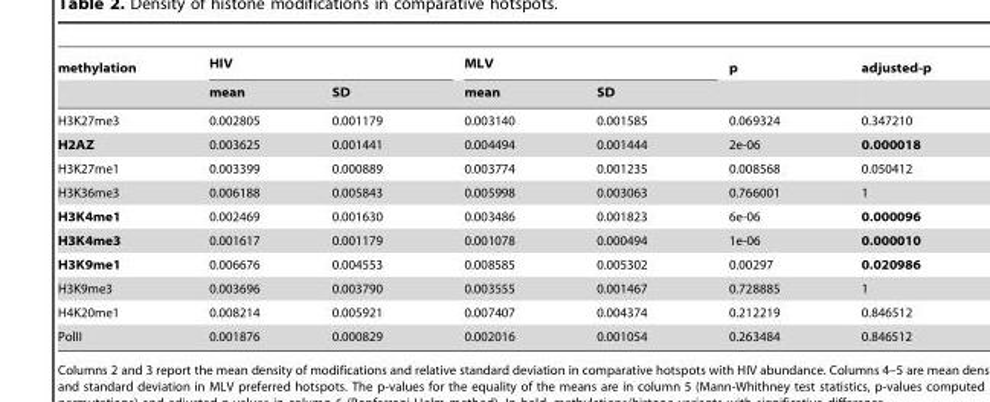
<table><thead><tr><td rowspan="2">methylation</td><td colspan="2">HIV</td><td colspan="2">MLV</td><td rowspan="2">p</td><td rowspan="2">adjusted-p</td></tr><tr><td>mean</td><td>SD</td><td>mean</td><td>SD</td></tr></thead><tbody><tr><td>H3K27me3</td><td>0.002805</td><td>0.001179</td><td>0.003140</td><td>0.001585</td><td>0.069324</td><td>0.347210</td></tr><tr><td>H2AZ</td><td>0.003625</td><td>0.001441</td><td>0.004494</td><td>0.001444</td><td>2e-06</td><td>0.000018</td></tr><tr><td>H3K27me1</td><td>0.003399</td><td>0.000889</td><td>0.003774</td><td>0.001235</td><td>0.008568</td><td>0.050412</td></tr><tr><td>H3K36me3</td><td>0.006188</td><td>0.005843</td><td>0.005998</td><td>0.003063</td><td>0.766001</td><td>1</td></tr><tr><td>H3K4me1</td><td>0.002469</td><td>0.001630</td><td>0.003486</td><td>0.001823</td><td>6e-06</td><td>0.000096</td></tr><tr><td>H3K4me3</td><td>0.001617</td><td>0.001179</td><td>0.001078</td><td>0.000494</td><td>1e-06</td><td>0.000010</td></tr><tr><td>H3K9me1</td><td>0.006676</td><td>0.004553</td><td>0.008585</td><td>0.005302</td><td>0.00297</td><td>0.020986</td></tr><tr><td>H3K9me3</td><td>0.003696</td><td>0.003790</td><td>0.003555</td><td>0.001467</td><td>0.728885</td><td>1</td></tr><tr><td>H4K20me1</td><td>0.008214</td><td>0.005921</td><td>0.007407</td><td>0.004374</td><td>0.212219</td><td>0.846512</td></tr><tr><td>PolII</td><td>0.001876</td><td>0.000829</td><td>0.002016</td><td>0.001054</td><td>0.263484</td><td>0.846512</td></tr></tbody></table>